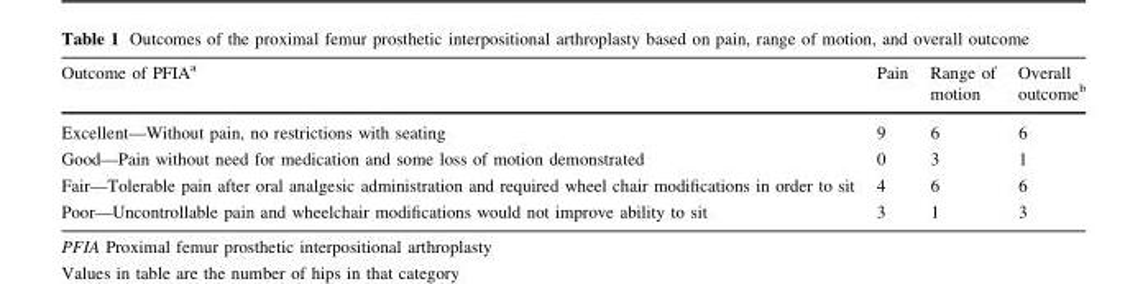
<table><thead><tr><td>Outcome of PFIA<sup>a</sup></td><td>Pain</td><td>Range of motion</td><td>Overall outcome<sup>b</sup></td></tr></thead><tbody><tr><td>Excellent—Without pain, no restrictions with seating</td><td>9</td><td>6</td><td>6</td></tr><tr><td>Good—Pain without need for medication and some loss of motion demonstrated</td><td>0</td><td>3</td><td>1</td></tr><tr><td>Fair—Tolerable pain after oral analgesic administration and required wheel chair modifications in order to sit</td><td>4</td><td>6</td><td>6</td></tr><tr><td>Poor—Uncontrollable pain and wheelchair modifications would not improve ability to sit</td><td>3</td><td>1</td><td>3</td></tr></tbody></table>